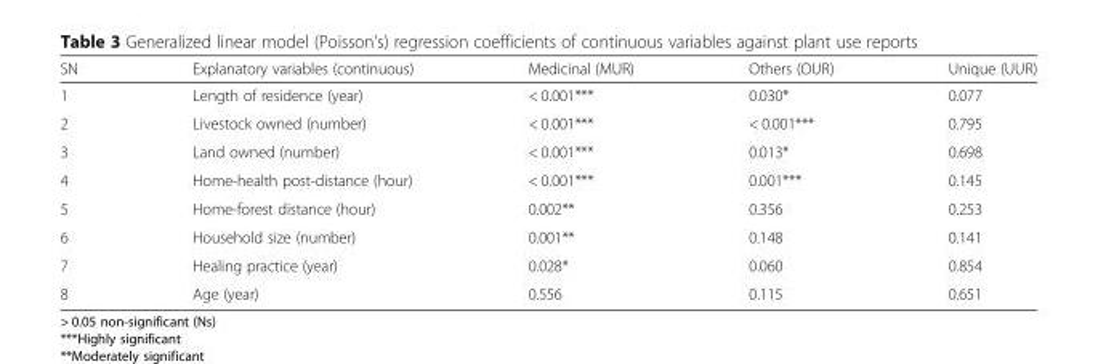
<table><thead><tr><td>SN</td><td>Explanatory variables (continuous)</td><td>Medicinal (MUR)</td><td>Others (OUR)</td><td>Unique (UUR)</td></tr></thead><tbody><tr><td>1</td><td>Length of residence (year)</td><td>&lt; 0.001***</td><td>0.030*</td><td>0.077</td></tr><tr><td>2</td><td>Livestock owned (number)</td><td>&lt; 0.001***</td><td>&lt; 0.001***</td><td>0.795</td></tr><tr><td>3</td><td>Land owned (number)</td><td>&lt; 0.001***</td><td>0.013*</td><td>0.698</td></tr><tr><td>4</td><td>Home-health post-distance (hour)</td><td>&lt; 0.001***</td><td>0.001***</td><td>0.145</td></tr><tr><td>5</td><td>Home-forest distance (hour)</td><td>0.002**</td><td>0.356</td><td>0.253</td></tr><tr><td>6</td><td>Household size (number)</td><td>0.001**</td><td>0.148</td><td>0.141</td></tr><tr><td>7</td><td>Healing practice (year)</td><td>0.028*</td><td>0.060</td><td>0.854</td></tr><tr><td>8</td><td>Age (year)</td><td>0.556</td><td>0.115</td><td>0.651</td></tr></tbody></table>